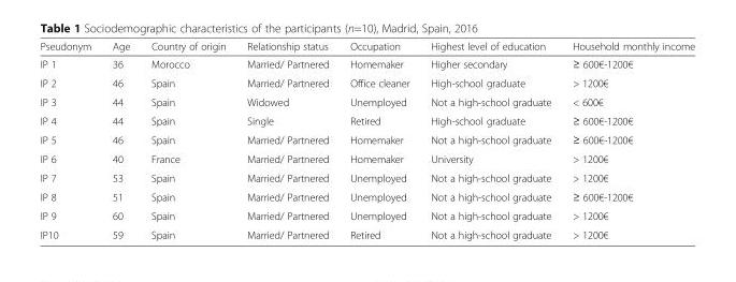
<table><thead><tr><td>Pseudonym</td><td>Age</td><td>Country of origin</td><td>Relationship status</td><td>Occupation</td><td>Highest level of education</td><td>Household monthly income</td></tr></thead><tbody><tr><td>IP 1</td><td>36</td><td>Morocco</td><td>Married/ Partnered</td><td>Homemaker</td><td>Higher secondary</td><td>≥ 600€-1200€</td></tr><tr><td>IP 2</td><td>46</td><td>Spain</td><td>Married/ Partnered</td><td>Office cleaner</td><td>High-school graduate</td><td>&gt; 1200€</td></tr><tr><td>IP 3</td><td>44</td><td>Spain</td><td>Widowed</td><td>Unemployed</td><td>Not a high-school graduate</td><td>&lt; 600€</td></tr><tr><td>IP 4</td><td>44</td><td>Spain</td><td>Single</td><td>Retired</td><td>High-school graduate</td><td>≥ 600€-1200€</td></tr><tr><td>IP 5</td><td>46</td><td>Spain</td><td>Married/ Partnered</td><td>Homemaker</td><td>Not a high-school graduate</td><td>≥ 600€-1200€</td></tr><tr><td>IP 6</td><td>40</td><td>France</td><td>Married/ Partnered</td><td>Homemaker</td><td>University</td><td>&gt; 1200€</td></tr><tr><td>IP 7</td><td>53</td><td>Spain</td><td>Married/ Partnered</td><td>Unemployed</td><td>Not a high-school graduate</td><td>&gt; 1200€</td></tr><tr><td>IP 8</td><td>51</td><td>Spain</td><td>Married/ Partnered</td><td>Unemployed</td><td>Not a high-school graduate</td><td>≥ 600€-1200€</td></tr><tr><td>IP 9</td><td>60</td><td>Spain</td><td>Married/ Partnered</td><td>Unemployed</td><td>Not a high-school graduate</td><td>&gt; 1200€</td></tr><tr><td>IP10</td><td>59</td><td>Spain</td><td>Married/ Partnered</td><td>Retired</td><td>Not a high-school graduate</td><td>&gt; 1200€</td></tr></tbody></table>